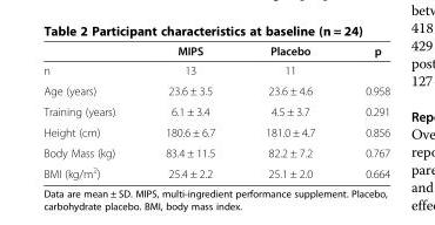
<table><thead><tr><td></td><td>MIPS</td><td>Placebo</td><td>p</td></tr></thead><tbody><tr><td>n</td><td>13</td><td>11</td><td></td></tr><tr><td>Age (years)</td><td>23.6 ± 3.5</td><td>23.6 ± 4.6</td><td>0.958</td></tr><tr><td>Training (years)</td><td>6.1 ± 3.4</td><td>4.5 ± 3.7</td><td>0.291</td></tr><tr><td>Height (cm)</td><td>180.6 ± 6.7</td><td>181.0 ± 4.7</td><td>0.856</td></tr><tr><td>Body Mass (kg)</td><td>83.4 ± 11.5</td><td>82.2 ± 7.2</td><td>0.767</td></tr><tr><td>BMI (kg/m<sup>2</sup>)</td><td>25.4 ± 2.2</td><td>25.1 ± 2.0</td><td>0.664</td></tr></tbody></table>